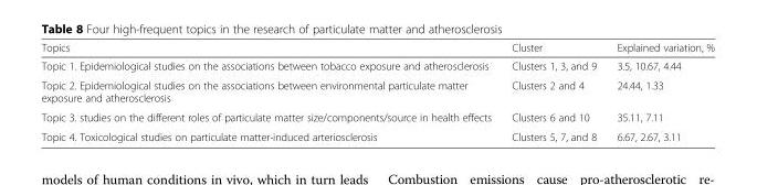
<table><thead><tr><td>Topics</td><td>Cluster</td><td>Explained variation, %</td></tr></thead><tbody><tr><td>Topic 1. Epidemiological studies on the associations between tobacco exposure and atherosclerosis</td><td>Clusters 1, 3, and 9</td><td>3.5, 10.67, 4.44</td></tr><tr><td>Topic 2. Epidemiological studies on the associations between environmental particulate matter exposure and atherosclerosis</td><td>Clusters 2 and 4</td><td>24.44, 1.33</td></tr><tr><td>Topic 3. studies on the different roles of particulate matter size/components/source in health effects</td><td>Clusters 6 and 10</td><td>35.11, 7.11</td></tr><tr><td>Topic 4. Toxicological studies on particulate matter-induced arteriosclerosis</td><td>Clusters 5, 7, and 8</td><td>6.67, 2.67, 3.11</td></tr></tbody></table>